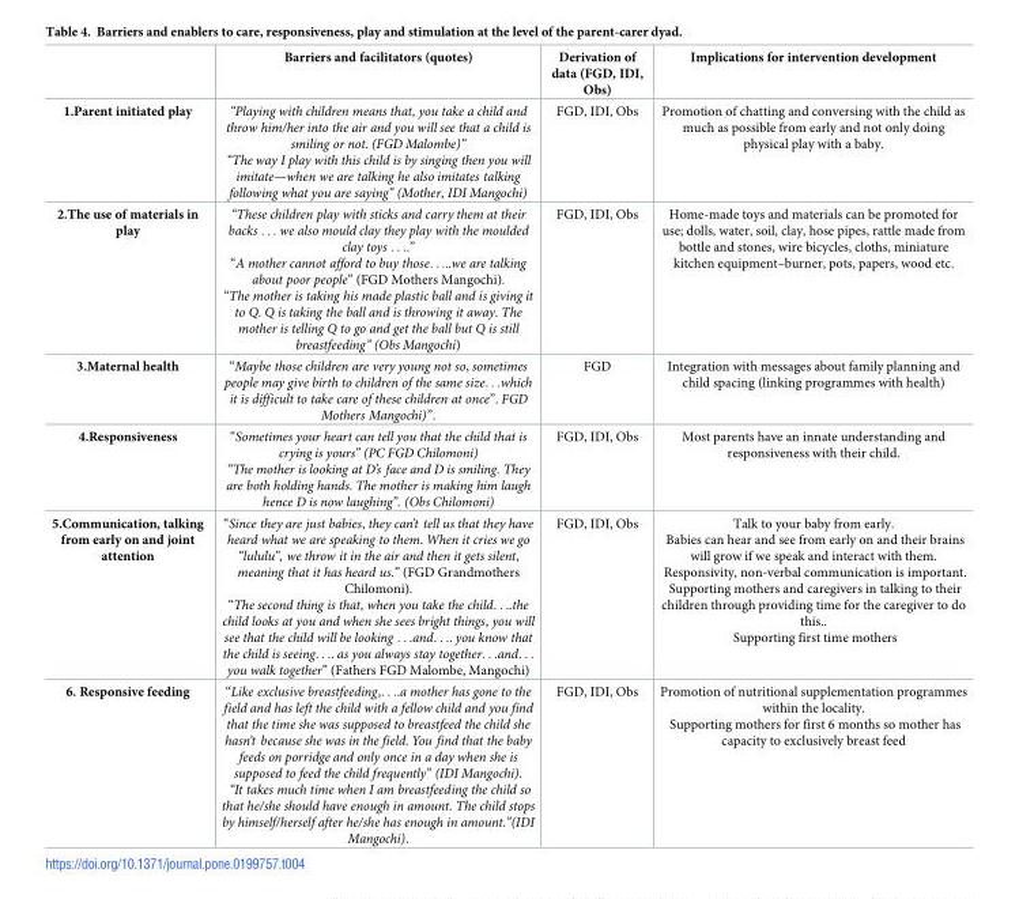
<table><thead><tr><td></td><td>Barriers and facilitators (quotes)</td><td>Derivation of data (FGD, IDI, Obs)</td><td>Implications for intervention development</td></tr></thead><tbody><tr><td>1.Parent initiated play</td><td>“Playing with children means that, you take a child and throw him/her into the air and you will see that a child is smiling or not. (FGD Malombe)” “The way I play with this child is by singing then you will imitate—when we are talking he also imitates talking following what you are saying” (Mother, IDI Mangochi)</td><td>FGD, IDI, Obs</td><td>Promotion of chatting and conversing with the child as much as possible from early and not only doing physical play with a baby.</td></tr><tr><td>2.The use of materials in play</td><td>“These children play with sticks and carry them at their backs . . . we also mould clay they play with the moulded clay toys . . ..” “A mother cannot afford to buy those. . ...we are talking about poor people” (FGD Mothers Mangochi). “The mother is taking his made plastic ball and is giving it to Q. Q is taking the ball and is throwing it away. The mother is telling Q to go and get the ball but Q is still breastfeeding” (Obs Mangochi)</td><td>FGD, IDI, Obs</td><td>Home-made toys and materials can be promoted for use; dolls, water, soil, clay, hose pipes, rattle made from bottle and stones, wire bicycles, cloths, miniature kitchen equipment–burner, pots, papers, wood etc.</td></tr><tr><td>3.Maternal health</td><td>“Maybe those children are very young not so, sometimes people may give birth to children of the same size. . .which it is difficult to take care of these children at once”. FGD Mothers Mangochi)”.</td><td>FGD</td><td>Integration with messages about family planning and child spacing (linking programmes with health)</td></tr><tr><td>4.Responsiveness</td><td>“Sometimes your heart can tell you that the child that is crying is yours” (PC FGD Chilomoni) “The mother is looking at D’s face and D is smiling. They are both holding hands. The mother is making him laugh hence D is now laughing”. (Obs Chilomoni)</td><td>FGD, IDI, Obs</td><td>Most parents have an innate understanding and responsiveness with their child.</td></tr><tr><td>5.Communication, talking from early on and joint attention</td><td>“Since they are just babies, they can’t tell us that they have heard what we are speaking to them. When it cries we go ‘‘lululu”, we throw it in the air and then it gets silent, meaning that it has heard us.” (FGD Grandmothers Chilomoni). “The second thing is that, when you take the child. . ..the child looks at you and when she sees bright things, you will see that the child will be looking . . .and. . .. you know that the child is seeing. . .. as you always stay together. . .and. . . you walk together” (Fathers FGD Malombe, Mangochi)</td><td>FGD, IDI, Obs</td><td>Talk to your baby from early. Babies can hear and see from early on and their brains will grow if we speak and interact with them. Responsivity, non-verbal communication is important. Supporting mothers and caregivers in talking to their children through providing time for the caregiver to do this.. Supporting first time mothers</td></tr><tr><td>6. Responsive feeding</td><td>“Like exclusive breastfeeding,. . ..a mother has gone to the field and has left the child with a fellow child and you find that the time she was supposed to breastfeed the child she hasn’t because she was in the field. You find that the baby feeds on porridge and only once in a day when she is supposed to feed the child frequently” (IDI Mangochi). “It takes much time when I am breastfeeding the child so that he/she should have enough in amount. The child stops by himself/herself after he/she has enough in amount.”(IDI Mangochi).</td><td>FGD, IDI, Obs</td><td>Promotion of nutritional supplementation programmes within the locality. Supporting mothers for first 6 months so mother has capacity to exclusively breast feed</td></tr></tbody></table>